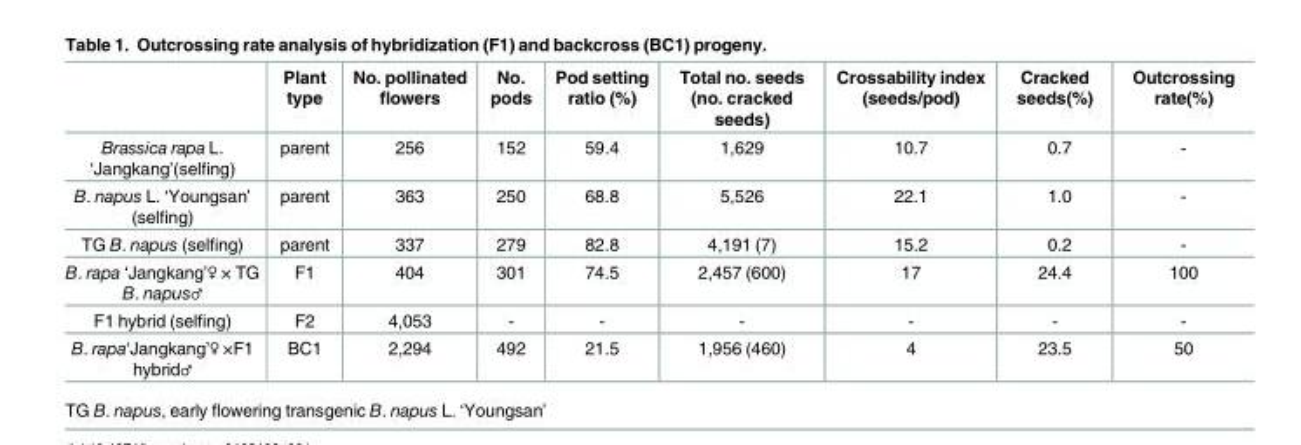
<table><thead><tr><td></td><td>Plant type</td><td>No. pollinated flowers</td><td>No. pods</td><td>Pod setting ratio (%)</td><td>Total no. seeds (no. cracked seeds)</td><td>Crossability index (seeds/pod)</td><td>Cracked seeds(%)</td><td>Outcrossing rate(%)</td></tr></thead><tbody><tr><td>Brassica rapa L. ‘Jangkang’(selfing)</td><td>parent</td><td>256</td><td>152</td><td>59.4</td><td>1,629</td><td>10.7</td><td>0.7</td><td>-</td></tr><tr><td>B. napus L. ‘Youngsan’ (selfing)</td><td>parent</td><td>363</td><td>250</td><td>68.8</td><td>5,526</td><td>22.1</td><td>1.0</td><td>-</td></tr><tr><td>TG B. napus (selfing)</td><td>parent</td><td>337</td><td>279</td><td>82.8</td><td>4,191 (7)</td><td>15.2</td><td>0.2</td><td>-</td></tr><tr><td>B. rapa ‘Jangkang’♀ × TG B. napus♂</td><td>F1</td><td>404</td><td>301</td><td>74.5</td><td>2,457 (600)</td><td>17</td><td>24.4</td><td>100</td></tr><tr><td>F1 hybrid (selfing)</td><td>F2</td><td>4,053</td><td>-</td><td>-</td><td>-</td><td>-</td><td>-</td><td>-</td></tr><tr><td>B. rapa‘Jangkang’♀ ×F1 hybrid♂</td><td>BC1</td><td>2,294</td><td>492</td><td>21.5</td><td>1,956 (460)</td><td>4</td><td>23.5</td><td>50</td></tr></tbody></table>